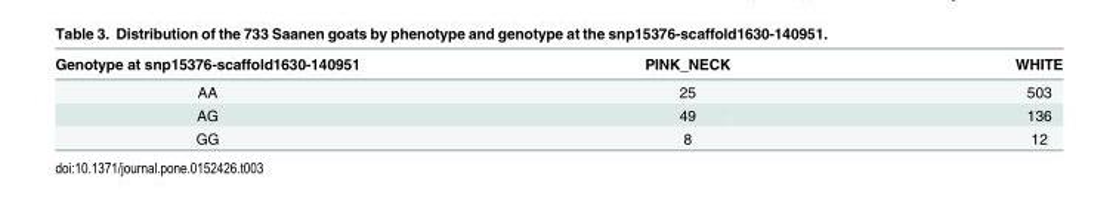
<table><thead><tr><td>Genotype at snp15376-scaffold1630-140951</td><td>PINK_NECK</td><td>WHITE</td></tr></thead><tbody><tr><td>AA</td><td>25</td><td>503</td></tr><tr><td>AG</td><td>49</td><td>136</td></tr><tr><td>GG</td><td>8</td><td>12</td></tr></tbody></table>